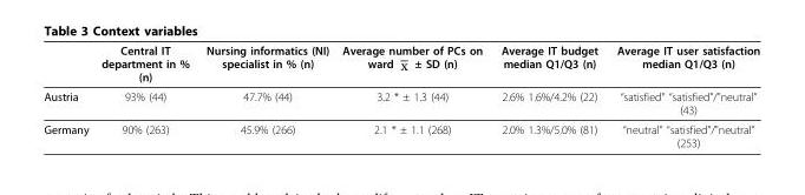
<table><thead><tr><td></td><td>Central IT department in % (n)</td><td>Nursing informatics (NI) specialist in % (n)</td><td>Average number of PCs on ward x ± SD (n)</td><td>Average IT budget median Q1/Q3 (n)</td><td>Average IT user satisfaction median Q1/Q3 (n)</td></tr></thead><tbody><tr><td>Austria</td><td>93% (44)</td><td>47.7% (44)</td><td>3.2 * ± 1.3 (44)</td><td>2.6% 1.6%/4.2% (22)</td><td>“satisfied” “satisfied&quot;/&quot;neutral” (43)</td></tr><tr><td>Germany</td><td>90% (263)</td><td>45.9% (266)</td><td>2.1 * ± 1.1 (268)</td><td>2.0% 1.3%/5.0% (81)</td><td>“neutral” “satisfied&quot;/&quot;neutral” (253)</td></tr></tbody></table>